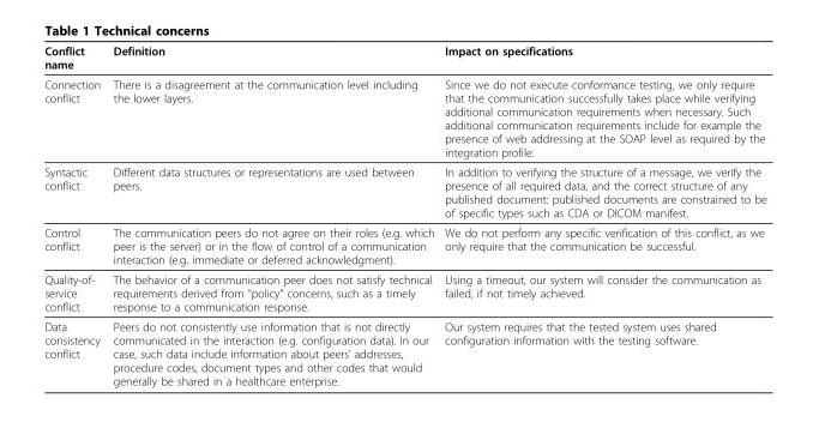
<table><thead><tr><td>Conflict name</td><td>Definition</td><td>Impact on specifications</td></tr></thead><tbody><tr><td>Connection conflict</td><td>There is a disagreement at the communication level including the lower layers.</td><td>Since we do not execute conformance testing, we only require that the communication successfully takes place while verifying additional communication requirements when necessary. Such additional communication requirements include for example the presence of web addressing at the SOAP level as required by the integration profile.</td></tr><tr><td>Syntactic conflict</td><td>Different data structures or representations are used between peers.</td><td>In addition to verifying the structure of a message, we verify the presence of all required data, and the correct structure of any published document: published documents are constrained to be of specific types such as CDA or DICOM manifest.</td></tr><tr><td>Control conflict</td><td>The communication peers do not agree on their roles (e.g. which peer is the server) or in the flow of control of a communication interaction (e.g. immediate or deferred acknowledgment).</td><td>We do not perform any specific verification of this conflict, as we only require that the communication be successful.</td></tr><tr><td>Quality-of- service conflict</td><td>The behavior of a communication peer does not satisfy technical requirements derived from “policy” concerns, such as a timely response to a communication response.</td><td>Using a timeout, our system will consider the communication as failed, if not timely achieved.</td></tr><tr><td>Data consistency conflict</td><td>Peers do not consistently use information that is not directly communicated in the interaction (e.g. configuration data). In our case, such data include information about peers’ addresses, procedure codes, document types and other codes that would generally be shared in a healthcare enterprise.</td><td>Our system requires that the tested system uses shared configuration information with the testing software.</td></tr></tbody></table>